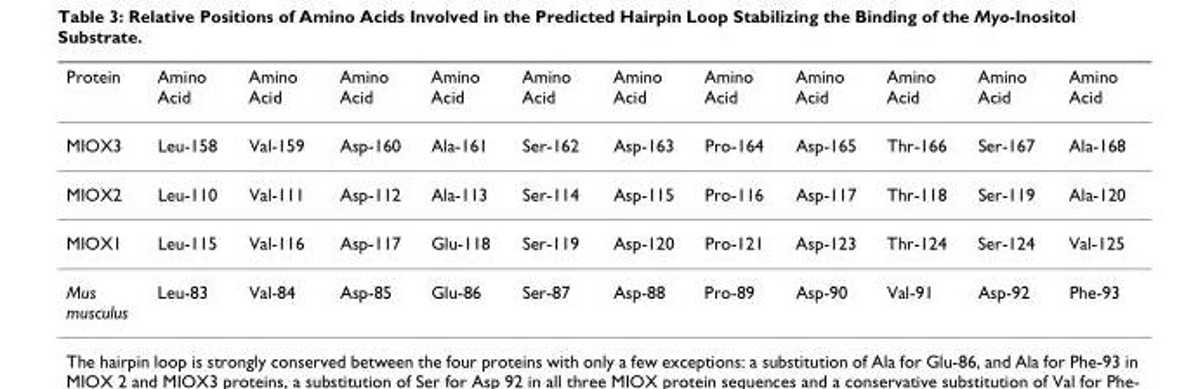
<table><thead><tr><td>Protein</td><td>Amino Acid</td><td>Amino Acid</td><td>Amino Acid</td><td>Amino Acid</td><td>Amino Acid</td><td>Amino Acid</td><td>Amino Acid</td><td>Amino Acid</td><td>Amino Acid</td><td>Amino Acid</td><td>Amino Acid</td></tr></thead><tbody><tr><td>MIOX3</td><td>Leu-158</td><td>Val-159</td><td>Asp-160</td><td>Ala-161</td><td>Ser-162</td><td>Asp-163</td><td>Pro-164</td><td>Asp-165</td><td>Thr-166</td><td>Ser-167</td><td>Ala-168</td></tr><tr><td>MIOX2</td><td>Leu-110</td><td>Val-111</td><td>Asp-112</td><td>Ala-113</td><td>Ser-114</td><td>Asp-115</td><td>Pro-116</td><td>Asp-117</td><td>Thr-118</td><td>Ser-119</td><td>Ala-120</td></tr><tr><td>MIOX1</td><td>Leu-115</td><td>Val-116</td><td>Asp-117</td><td>Glu-118</td><td>Ser-119</td><td>Asp-120</td><td>Pro-121</td><td>Asp-123</td><td>Thr-124</td><td>Ser-124</td><td>Val-125</td></tr><tr><td>Mus musculus</td><td>Leu-83</td><td>Val-84</td><td>Asp-85</td><td>Glu-86</td><td>Ser-87</td><td>Asp-88</td><td>Pro-89</td><td>Asp-90</td><td>Val-91</td><td>Asp-92</td><td>Phe-93</td></tr></tbody></table>